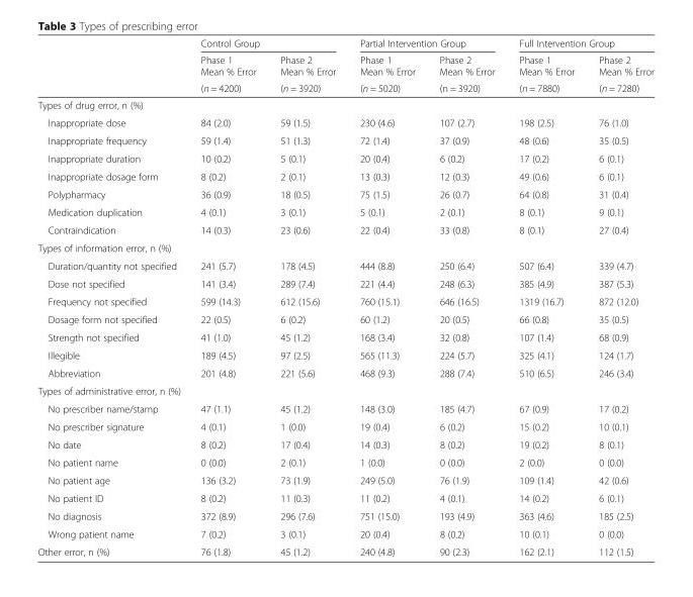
<table><thead><tr><td rowspan="3"></td><td colspan="2">Control Group</td><td colspan="2">Partial Intervention Group</td><td colspan="2">Full Intervention Group</td></tr><tr><td rowspan="2">Phase 1 Mean % Error (n = 4200)</td><td rowspan="2">Phase 2 Mean % Error (n = 3920)</td><td rowspan="2">Phase 1 Mean % Error (n = 5020)</td><td rowspan="2">Phase 2 Mean % Error (n = 3920)</td><td rowspan="2">Phase 1 Mean % Error (n = 7880)</td><td rowspan="2">Phase 2 Mean % Error (n = 7280)</td></tr><tr></tr></thead><tbody><tr><td colspan="7">Types of drug error, n (%)</td></tr><tr><td>Inappropriate dose</td><td>84 (2.0)</td><td>59 (1.5)</td><td>230 (4.6)</td><td>107 (2.7)</td><td>198 (2.5)</td><td>76 (1.0)</td></tr><tr><td>Inappropriate frequency</td><td>59 (1.4)</td><td>51 (1.3)</td><td>72 (1.4)</td><td>37 (0.9)</td><td>48 (0.6)</td><td>35 (0.5)</td></tr><tr><td>Inappropriate duration</td><td>10 (0.2)</td><td>5 (0.1)</td><td>20 (0.4)</td><td>6 (0.2)</td><td>17 (0.2)</td><td>6 (0.1)</td></tr><tr><td>Inappropriate dosage form</td><td>8 (0.2)</td><td>2 (0.1)</td><td>13 (0.3)</td><td>12 (0.3)</td><td>49 (0.6)</td><td>6 (0.1)</td></tr><tr><td>Polypharmacy</td><td>36 (0.9)</td><td>18 (0.5)</td><td>75 (1.5)</td><td>26 (0.7)</td><td>64 (0.8)</td><td>31 (0.4)</td></tr><tr><td>Medication duplication</td><td>4 (0.1)</td><td>3 (0.1)</td><td>5 (0.1)</td><td>2 (0.1)</td><td>8 (0.1)</td><td>9 (0.1)</td></tr><tr><td>Contraindication</td><td>14 (0.3)</td><td>23 (0.6)</td><td>22 (0.4)</td><td>33 (0.8)</td><td>8 (0.1)</td><td>27 (0.4)</td></tr><tr><td colspan="7">Types of information error, n (%)</td></tr><tr><td>Duration/quantity not specified</td><td>241 (5.7)</td><td>178 (4.5)</td><td>444 (8.8)</td><td>250 (6.4)</td><td>507 (6.4)</td><td>339 (4.7)</td></tr><tr><td>Dose not specified</td><td>141 (3.4)</td><td>289 (7.4)</td><td>221 (4.4)</td><td>248 (6.3)</td><td>385 (4.9)</td><td>387 (5.3)</td></tr><tr><td>Frequency not specified</td><td>599 (14.3)</td><td>612 (15.6)</td><td>760 (15.1)</td><td>646 (16.5)</td><td>1319 (16.7)</td><td>872 (12.0)</td></tr><tr><td>Dosage form not specified</td><td>22 (0.5)</td><td>6 (0.2)</td><td>60 (1.2)</td><td>20 (0.5)</td><td>66 (0.8)</td><td>35 (0.5)</td></tr><tr><td>Strength not specified</td><td>41 (1.0)</td><td>45 (1.2)</td><td>168 (3.4)</td><td>32 (0.8)</td><td>107 (1.4)</td><td>68 (0.9)</td></tr><tr><td>Illegible</td><td>189 (4.5)</td><td>97 (2.5)</td><td>565 (11.3)</td><td>224 (5.7)</td><td>325 (4.1)</td><td>124 (1.7)</td></tr><tr><td>Abbreviation</td><td>201 (4.8)</td><td>221 (5.6)</td><td>468 (9.3)</td><td>288 (7.4)</td><td>510 (6.5)</td><td>246 (3.4)</td></tr><tr><td colspan="7">Types of administrative error, n (%)</td></tr><tr><td>No prescriber name/stamp</td><td>47 (1.1)</td><td>45 (1.2)</td><td>148 (3.0)</td><td>185 (4.7)</td><td>67 (0.9)</td><td>17 (0.2)</td></tr><tr><td>No prescriber signature</td><td>4 (0.1)</td><td>1 (0.0)</td><td>19 (0.4)</td><td>6 (0.2)</td><td>15 (0.2)</td><td>10 (0.1)</td></tr><tr><td>No date</td><td>8 (0.2)</td><td>17 (0.4)</td><td>14 (0.3)</td><td>8 (0.2)</td><td>19 (0.2)</td><td>8 (0.1)</td></tr><tr><td>No patient name</td><td>0 (0.0)</td><td>2 (0.1)</td><td>1 (0.0)</td><td>0 (0.0)</td><td>2 (0.0)</td><td>0 (0.0)</td></tr><tr><td>No patient age</td><td>136 (3.2)</td><td>73 (1.9)</td><td>249 (5.0)</td><td>76 (1.9)</td><td>109 (1.4)</td><td>42 (0.6)</td></tr><tr><td>No patient ID</td><td>8 (0.2)</td><td>11 (0.3)</td><td>11 (0.2)</td><td>4 (0.1)</td><td>14 (0.2)</td><td>6 (0.1)</td></tr><tr><td>No diagnosis</td><td>372 (8.9)</td><td>296 (7.6)</td><td>751 (15.0)</td><td>193 (4.9)</td><td>363 (4.6)</td><td>185 (2.5)</td></tr><tr><td>Wrong patient name</td><td>7 (0.2)</td><td>3 (0.1)</td><td>20 (0.4)</td><td>8 (0.2)</td><td>10 (0.1)</td><td>0 (0.0)</td></tr><tr><td>Other error, n (%)</td><td>76 (1.8)</td><td>45 (1.2)</td><td>240 (4.8)</td><td>90 (2.3)</td><td>162 (2.1)</td><td>112 (1.5)</td></tr></tbody></table>